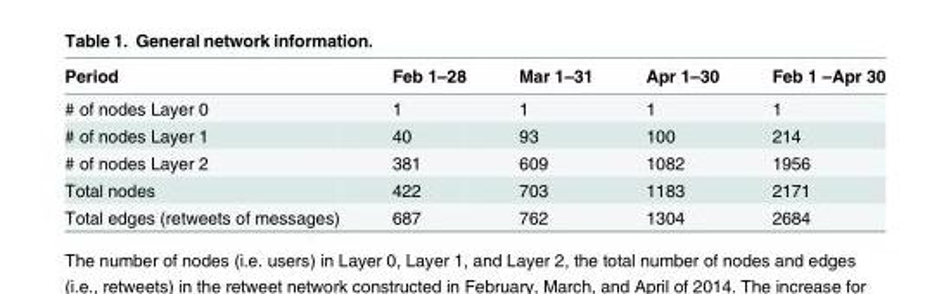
<table><thead><tr><td>Period</td><td>Feb 1–28</td><td>Mar 1–31</td><td>Apr 1–30</td><td>Feb 1 –Apr 30</td></tr></thead><tbody><tr><td># of nodes Layer 0</td><td>1</td><td>1</td><td>1</td><td>1</td></tr><tr><td># of nodes Layer 1</td><td>40</td><td>93</td><td>100</td><td>214</td></tr><tr><td># of nodes Layer 2</td><td>381</td><td>609</td><td>1082</td><td>1956</td></tr><tr><td>Total nodes</td><td>422</td><td>703</td><td>1183</td><td>2171</td></tr><tr><td>Total edges (retweets of messages)</td><td>687</td><td>762</td><td>1304</td><td>2684</td></tr></tbody></table>